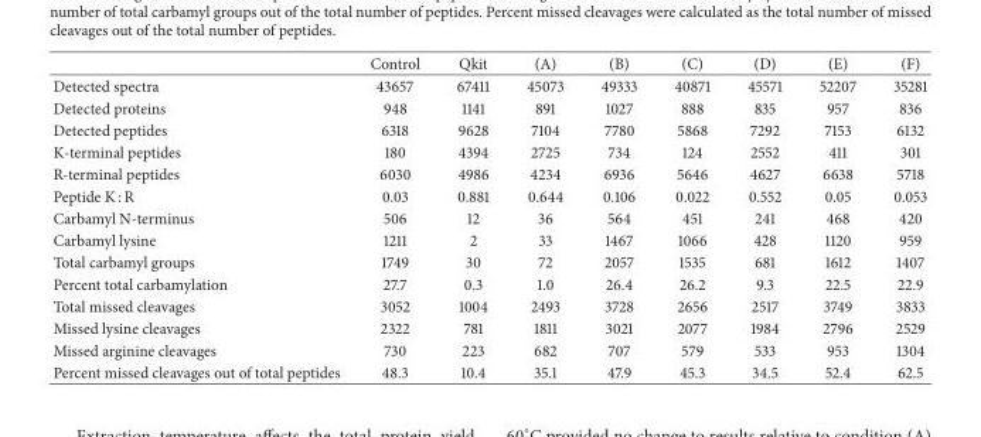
<table><thead><tr><td></td><td>Control</td><td>Qkit</td><td>(A)</td><td>(B)</td><td>(C)</td><td>(D)</td><td>(E)</td><td>(F)</td></tr></thead><tbody><tr><td>Detected spectra</td><td>43657</td><td>67411</td><td>45073</td><td>49333</td><td>40871</td><td>45571</td><td>52207</td><td>35281</td></tr><tr><td>Detected proteins</td><td>948</td><td>1141</td><td>891</td><td>1027</td><td>888</td><td>835</td><td>957</td><td>836</td></tr><tr><td>Detected peptides</td><td>6318</td><td>9628</td><td>7104</td><td>7780</td><td>5868</td><td>7292</td><td>7153</td><td>6132</td></tr><tr><td>K-terminal peptides</td><td>180</td><td>4394</td><td>2725</td><td>734</td><td>124</td><td>2552</td><td>411</td><td>301</td></tr><tr><td>R-terminal peptides</td><td>6030</td><td>4986</td><td>4234</td><td>6936</td><td>5646</td><td>4627</td><td>6638</td><td>5718</td></tr><tr><td>Peptide K : R</td><td>0.03</td><td>0.881</td><td>0.644</td><td>0.106</td><td>0.022</td><td>0.552</td><td>0.05</td><td>0.053</td></tr><tr><td>Carbamyl N-terminus</td><td>506</td><td>12</td><td>36</td><td>564</td><td>451</td><td>241</td><td>468</td><td>420</td></tr><tr><td>Carbamyl lysine</td><td>1211</td><td>2</td><td>33</td><td>1467</td><td>1066</td><td>428</td><td>1120</td><td>959</td></tr><tr><td>Total carbamyl groups</td><td>1749</td><td>30</td><td>72</td><td>2057</td><td>1535</td><td>681</td><td>1612</td><td>1407</td></tr><tr><td>Percent total carbamylation</td><td>27.7</td><td>0.3</td><td>1.0</td><td>26.4</td><td>26.2</td><td>9.3</td><td>22.5</td><td>22.9</td></tr><tr><td>Total missed cleavages</td><td>3052</td><td>1004</td><td>2493</td><td>3728</td><td>2656</td><td>2517</td><td>3749</td><td>3833</td></tr><tr><td>Missed lysine cleavages</td><td>2322</td><td>781</td><td>1811</td><td>3021</td><td>2077</td><td>1984</td><td>2796</td><td>2529</td></tr><tr><td>Missed arginine cleavages</td><td>730</td><td>223</td><td>682</td><td>707</td><td>579</td><td>533</td><td>953</td><td>1304</td></tr><tr><td>Percent missed cleavages out of total peptides</td><td>48.3</td><td>10.4</td><td>35.1</td><td>47.9</td><td>45.3</td><td>34.5</td><td>52.4</td><td>62.5</td></tr></tbody></table>